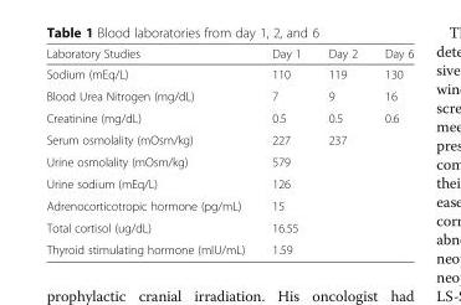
<table><thead><tr><td>Laboratory Studies</td><td>Day 1</td><td>Day 2</td><td>Day 6</td></tr></thead><tbody><tr><td>Sodium (mEq/L)</td><td>110</td><td>119</td><td>130</td></tr><tr><td>Blood Urea Nitrogen (mg/dL)</td><td>7</td><td>9</td><td>16</td></tr><tr><td>Creatinine (mg/dL)</td><td>0.5</td><td>0.5</td><td>0.6</td></tr><tr><td>Serum osmolality (mOsm/kg)</td><td>227</td><td>237</td><td></td></tr><tr><td>Urine osmolality (mOsm/kg)</td><td>579</td><td></td><td></td></tr><tr><td>Urine sodium (mEq/L)</td><td>126</td><td></td><td></td></tr><tr><td>Adrenocorticotropic hormone (pg/mL)</td><td>15</td><td></td><td></td></tr><tr><td>Total cortisol (ug/dL)</td><td>16.55</td><td></td><td></td></tr><tr><td>Thyroid stimulating hormone (mIU/mL)</td><td>1.59</td><td></td><td></td></tr></tbody></table>